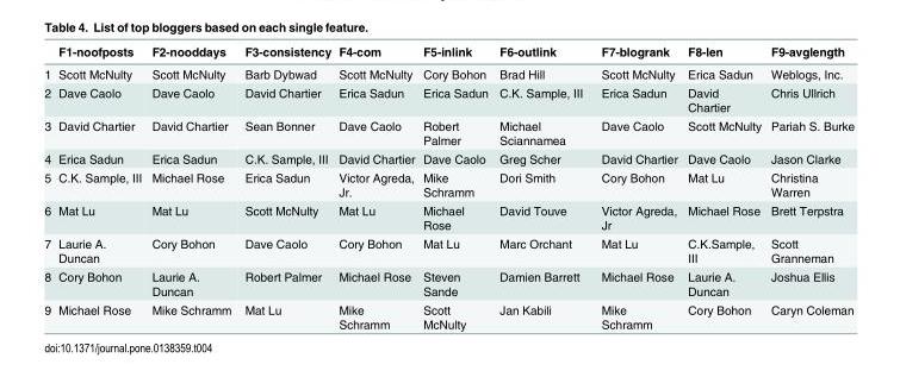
<table><thead><tr><td></td><td>F1-noofposts</td><td>F2-nooddays</td><td>F3-consistency</td><td>F4-com</td><td>F5-inlink</td><td>F6-outlink</td><td>F7-blogrank</td><td>F8-len</td><td>F9-avglength</td></tr></thead><tbody><tr><td>1</td><td>Scott McNulty</td><td>Scott McNulty</td><td>Barb Dybwad</td><td>Scott McNulty</td><td>Cory Bohon</td><td>Brad Hill</td><td>Scott McNulty</td><td>Erica Sadun</td><td>Weblogs, Inc.</td></tr><tr><td>2</td><td>Dave Caolo</td><td>Dave Caolo</td><td>David Chartier</td><td>Erica Sadun</td><td>Erica Sadun</td><td>C.K. Sample, III</td><td>Erica Sadun</td><td>David Chartier</td><td>Chris Ullrich</td></tr><tr><td>3</td><td>David Chartier</td><td>David Chartier</td><td>Sean Bonner</td><td>Dave Caolo</td><td>Robert Palmer</td><td>Michael Sciannamea</td><td>Dave Caolo</td><td>Scott McNulty</td><td>Pariah S. Burke</td></tr><tr><td>4</td><td>Erica Sadun</td><td>Erica Sadun</td><td>C.K. Sample, III</td><td>David Chartier</td><td>Dave Caolo</td><td>Greg Scher</td><td>David Chartier</td><td>Dave Caolo</td><td>Jason Clarke</td></tr><tr><td>5</td><td>C.K. Sample, III</td><td>Michael Rose</td><td>Erica Sadun</td><td>Victor Agreda, Jr.</td><td>Mike Schramm</td><td>Dori Smith</td><td>Cory Bohon</td><td>Mat Lu</td><td>Christina Warren</td></tr><tr><td>6</td><td>Mat Lu</td><td>Mat Lu</td><td>Scott McNulty</td><td>Mat Lu</td><td>Michael Rose</td><td>David Touve</td><td>Victor Agreda, Jr</td><td>Michael Rose</td><td>Brett Terpstra</td></tr><tr><td>7</td><td>Laurie A. Duncan</td><td>Cory Bohon</td><td>Dave Caolo</td><td>Cory Bohon</td><td>Mat Lu</td><td>Marc Orchant</td><td>Mat Lu</td><td>C.K.Sample, III</td><td>Scott Granneman</td></tr><tr><td>8</td><td>Cory Bohon</td><td>Laurie A. Duncan</td><td>Robert Palmer</td><td>Michael Rose</td><td>Steven Sande</td><td>Damien Barrett</td><td>Michael Rose</td><td>Laurie A. Duncan</td><td>Joshua Ellis</td></tr><tr><td>9</td><td>Michael Rose</td><td>Mike Schramm</td><td>Mat Lu</td><td>Mike Schramm</td><td>Scott McNulty</td><td>Jan Kabili</td><td>Mike Schramm</td><td>Cory Bohon</td><td>Caryn Coleman</td></tr></tbody></table>